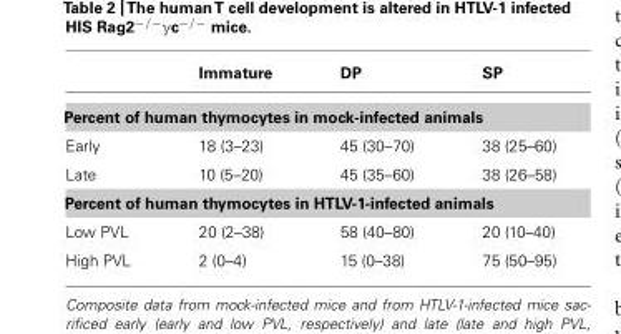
<table><thead><tr><td></td><td>Immature</td><td>DP</td><td>SP</td></tr></thead><tbody><tr><td colspan="4">Percent of human thymocytes in mock-infected animals</td></tr><tr><td>Early</td><td>18 (3–23)</td><td>45 (30–70)</td><td>38 (25–60)</td></tr><tr><td>Late</td><td>10 (5–20)</td><td>45 (35–60)</td><td>38 (26–58)</td></tr><tr><td colspan="4">Percent of human thymocytes in HTLV-1-infected animals</td></tr><tr><td>Low PVL</td><td>20 (2–38)</td><td>58 (40–80)</td><td>20 (10–40)</td></tr><tr><td>High PVL</td><td>2 (0–4)</td><td>15 (0–38)</td><td>75 (50–95)</td></tr></tbody></table>